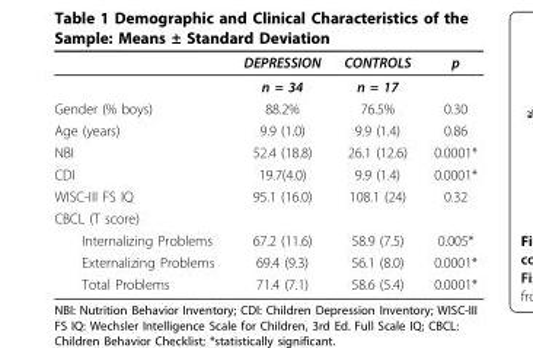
<table><thead><tr><td></td><td>DEPRESSION</td><td>CONTROLS</td><td>p</td></tr></thead><tbody><tr><td></td><td>n = 34</td><td>n = 17</td><td></td></tr><tr><td>Gender (% boys)</td><td>88.2%</td><td>76.5%</td><td>0.30</td></tr><tr><td>Age (years)</td><td>9.9 (1.0)</td><td>9.9 (1.4)</td><td>0.86</td></tr><tr><td>NBI</td><td>52.4 (18.8)</td><td>26.1 (12.6)</td><td>0.0001*</td></tr><tr><td>CDI</td><td>19.7(4.0)</td><td>9.9 (1.4)</td><td>0.0001*</td></tr><tr><td>WISC-III FS IQ</td><td>95.1 (16.0)</td><td>108.1 (24)</td><td>0.32</td></tr><tr><td colspan="4">CBCL (T score)</td></tr><tr><td>Internalizing Problems</td><td>67.2 (11.6)</td><td>58.9 (7.5)</td><td>0.005*</td></tr><tr><td>Externalizing Problems</td><td>69.4 (9.3)</td><td>56.1 (8.0)</td><td>0.0001*</td></tr><tr><td>Total Problems</td><td>71.4 (7.1)</td><td>58.6 (5.4)</td><td>0.0001*</td></tr></tbody></table>